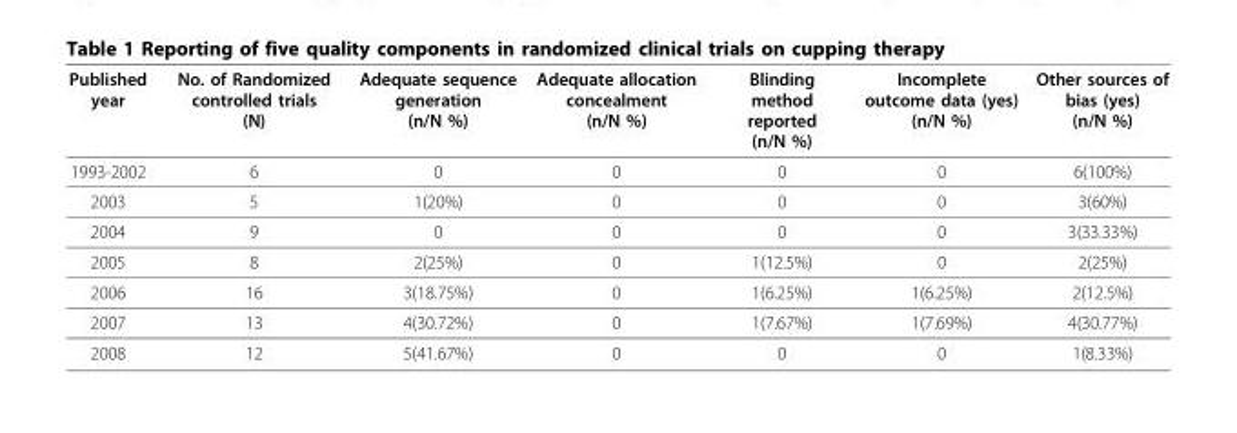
<table><thead><tr><td>Published year</td><td>No. of Randomized controlled trials (N)</td><td>Adequate sequence generation (n/N %)</td><td>Adequate allocation concealment (n/N %)</td><td>Blinding method reported (n/N %)</td><td>Incomplete outcome data (yes) (n/N %)</td><td>Other sources of bias (yes) (n/N %)</td></tr></thead><tbody><tr><td>1993-2002</td><td>6</td><td>0</td><td>0</td><td>0</td><td>0</td><td>6(100%)</td></tr><tr><td>2003</td><td>5</td><td>1(20%)</td><td>0</td><td>0</td><td>0</td><td>3(60%)</td></tr><tr><td>2004</td><td>9</td><td>0</td><td>0</td><td>0</td><td>0</td><td>3(33.33%)</td></tr><tr><td>2005</td><td>8</td><td>2(25%)</td><td>0</td><td>1(12.5%)</td><td>0</td><td>2(25%)</td></tr><tr><td>2006</td><td>16</td><td>3(18.75%)</td><td>0</td><td>1(6.25%)</td><td>1(6.25%)</td><td>2(12.5%)</td></tr><tr><td>2007</td><td>13</td><td>4(30.72%)</td><td>0</td><td>1(7.67%)</td><td>1(7.69%)</td><td>4(30.77%)</td></tr><tr><td>2008</td><td>12</td><td>5(41.67%)</td><td>0</td><td>0</td><td>0</td><td>1(8.33%)</td></tr></tbody></table>